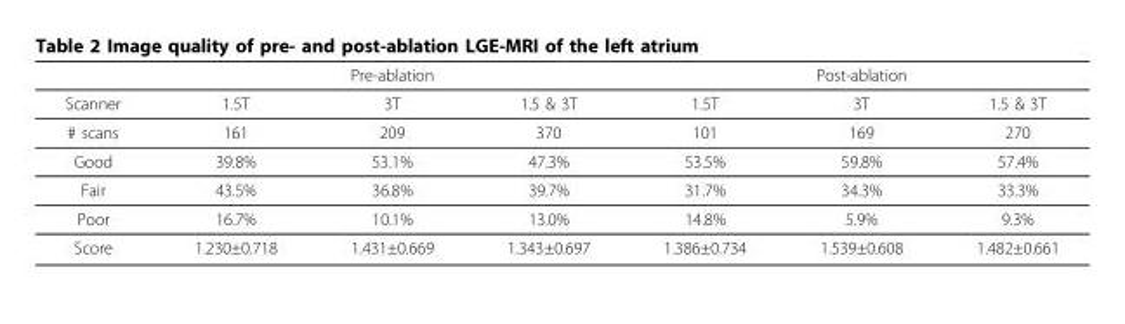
<table><thead><tr><td rowspan="2">Scanner</td><td colspan="3">Pre-ablation</td><td colspan="3">Post-ablation</td></tr><tr><td>1.5T</td><td>3T</td><td>1.5 &amp; 3T</td><td>1.5T</td><td>3T</td><td>1.5 &amp; 3T</td></tr></thead><tbody><tr><td># scans</td><td>161</td><td>209</td><td>370</td><td>101</td><td>169</td><td>270</td></tr><tr><td>Good</td><td>39.8%</td><td>53.1%</td><td>47.3%</td><td>53.5%</td><td>59.8%</td><td>57.4%</td></tr><tr><td>Fair</td><td>43.5%</td><td>36.8%</td><td>39.7%</td><td>31.7%</td><td>34.3%</td><td>33.3%</td></tr><tr><td>Poor</td><td>16.7%</td><td>10.1%</td><td>13.0%</td><td>14.8%</td><td>5.9%</td><td>9.3%</td></tr><tr><td>Score</td><td>1.230±0.718</td><td>1.431±0.669</td><td>1.343±0.697</td><td>1.386±0.734</td><td>1.539±0.608</td><td>1.482±0.661</td></tr></tbody></table>